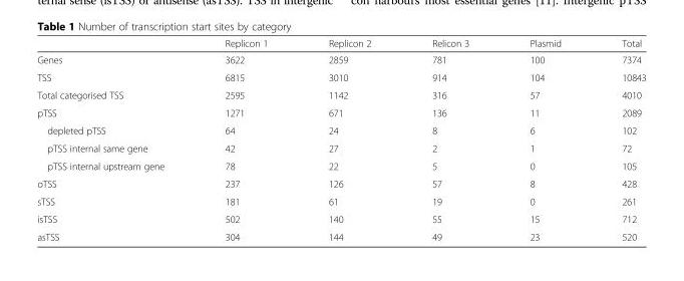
<table><thead><tr><td></td><td>Replicon 1</td><td>Replicon 2</td><td>Relicon 3</td><td>Plasmid</td><td>Total</td></tr></thead><tbody><tr><td>Genes</td><td>3622</td><td>2859</td><td>781</td><td>100</td><td>7374</td></tr><tr><td>TSS</td><td>6815</td><td>3010</td><td>914</td><td>104</td><td>10843</td></tr><tr><td>Total categorised TSS</td><td>2595</td><td>1142</td><td>316</td><td>57</td><td>4010</td></tr><tr><td>pTSS</td><td>1271</td><td>671</td><td>136</td><td>11</td><td>2089</td></tr><tr><td>depleted pTSS</td><td>64</td><td>24</td><td>8</td><td>6</td><td>102</td></tr><tr><td>pTSS internal same gene</td><td>42</td><td>27</td><td>2</td><td>1</td><td>72</td></tr><tr><td>pTSS internal upstream gene</td><td>78</td><td>22</td><td>5</td><td>0</td><td>105</td></tr><tr><td>oTSS</td><td>237</td><td>126</td><td>57</td><td>8</td><td>428</td></tr><tr><td>sTSS</td><td>181</td><td>61</td><td>19</td><td>0</td><td>261</td></tr><tr><td>isTSS</td><td>502</td><td>140</td><td>55</td><td>15</td><td>712</td></tr><tr><td>asTSS</td><td>304</td><td>144</td><td>49</td><td>23</td><td>520</td></tr></tbody></table>